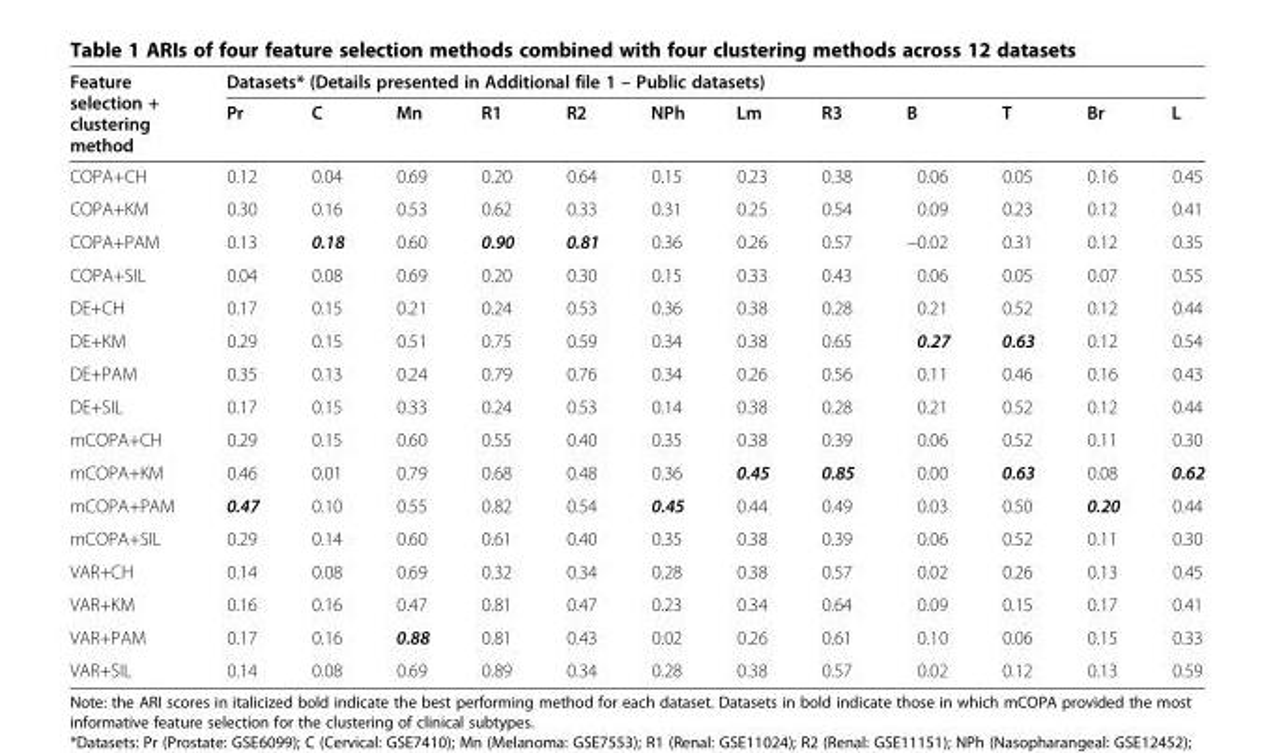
<table><thead><tr><td rowspan="2">Feature selection + clustering method</td><td colspan="12">Datasets* (Details presented in Additional file 1 – Public datasets)</td></tr><tr><td>Pr</td><td>C</td><td>Mn</td><td>R1</td><td>R2</td><td>NPh</td><td>Lm</td><td>R3</td><td>B</td><td>T</td><td>Br</td><td>L</td></tr></thead><tbody><tr><td>COPA+CH</td><td>0.12</td><td>0.04</td><td>0.69</td><td>0.20</td><td>0.64</td><td>0.15</td><td>0.23</td><td>0.38</td><td>0.06</td><td>0.05</td><td>0.16</td><td>0.45</td></tr><tr><td>COPA+KM</td><td>0.30</td><td>0.16</td><td>0.53</td><td>0.62</td><td>0.33</td><td>0.31</td><td>0.25</td><td>0.54</td><td>0.09</td><td>0.23</td><td>0.12</td><td>0.41</td></tr><tr><td>COPA+PAM</td><td>0.13</td><td>0.18</td><td>0.60</td><td>0.90</td><td>0.81</td><td>0.36</td><td>0.26</td><td>0.57</td><td>−0.02</td><td>0.31</td><td>0.12</td><td>0.35</td></tr><tr><td>COPA+SIL</td><td>0.04</td><td>0.08</td><td>0.69</td><td>0.20</td><td>0.30</td><td>0.15</td><td>0.33</td><td>0.43</td><td>0.06</td><td>0.05</td><td>0.07</td><td>0.55</td></tr><tr><td>DE+CH</td><td>0.17</td><td>0.15</td><td>0.21</td><td>0.24</td><td>0.53</td><td>0.36</td><td>0.38</td><td>0.28</td><td>0.21</td><td>0.52</td><td>0.12</td><td>0.44</td></tr><tr><td>DE+KM</td><td>0.29</td><td>0.15</td><td>0.51</td><td>0.75</td><td>0.59</td><td>0.34</td><td>0.38</td><td>0.65</td><td>0.27</td><td>0.63</td><td>0.12</td><td>0.54</td></tr><tr><td>DE+PAM</td><td>0.35</td><td>0.13</td><td>0.24</td><td>0.79</td><td>0.76</td><td>0.34</td><td>0.26</td><td>0.56</td><td>0.11</td><td>0.46</td><td>0.16</td><td>0.43</td></tr><tr><td>DE+SIL</td><td>0.17</td><td>0.15</td><td>0.33</td><td>0.24</td><td>0.53</td><td>0.14</td><td>0.38</td><td>0.28</td><td>0.21</td><td>0.52</td><td>0.12</td><td>0.44</td></tr><tr><td>mCOPA+CH</td><td>0.29</td><td>0.15</td><td>0.60</td><td>0.55</td><td>0.40</td><td>0.35</td><td>0.38</td><td>0.39</td><td>0.06</td><td>0.52</td><td>0.11</td><td>0.30</td></tr><tr><td>mCOPA+KM</td><td>0.46</td><td>0.01</td><td>0.79</td><td>0.68</td><td>0.48</td><td>0.36</td><td>0.45</td><td>0.85</td><td>0.00</td><td>0.63</td><td>0.08</td><td>0.62</td></tr><tr><td>mCOPA+PAM</td><td>0.47</td><td>0.10</td><td>0.55</td><td>0.82</td><td>0.54</td><td>0.45</td><td>0.44</td><td>0.49</td><td>0.03</td><td>0.50</td><td>0.20</td><td>0.44</td></tr><tr><td>mCOPA+SIL</td><td>0.29</td><td>0.14</td><td>0.60</td><td>0.61</td><td>0.40</td><td>0.35</td><td>0.38</td><td>0.39</td><td>0.06</td><td>0.52</td><td>0.11</td><td>0.30</td></tr><tr><td>VAR+CH</td><td>0.14</td><td>0.08</td><td>0.69</td><td>0.32</td><td>0.34</td><td>0.28</td><td>0.38</td><td>0.57</td><td>0.02</td><td>0.26</td><td>0.13</td><td>0.45</td></tr><tr><td>VAR+KM</td><td>0.16</td><td>0.16</td><td>0.47</td><td>0.81</td><td>0.47</td><td>0.23</td><td>0.34</td><td>0.64</td><td>0.09</td><td>0.15</td><td>0.17</td><td>0.41</td></tr><tr><td>VAR+PAM</td><td>0.17</td><td>0.16</td><td>0.88</td><td>0.81</td><td>0.43</td><td>0.02</td><td>0.26</td><td>0.61</td><td>0.10</td><td>0.06</td><td>0.15</td><td>0.33</td></tr><tr><td>VAR+SIL</td><td>0.14</td><td>0.08</td><td>0.69</td><td>0.89</td><td>0.34</td><td>0.28</td><td>0.38</td><td>0.57</td><td>0.02</td><td>0.12</td><td>0.13</td><td>0.59</td></tr></tbody></table>